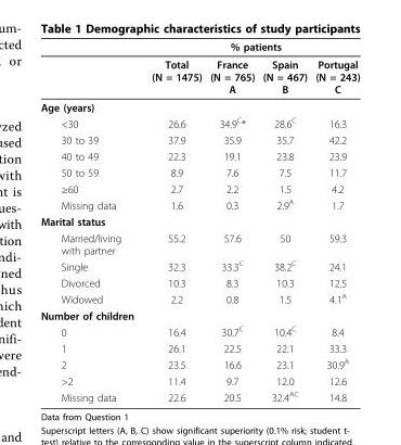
<table><thead><tr><td rowspan="2"></td><td colspan="4">% patients</td></tr><tr><td>Total (N = 1475)</td><td>France (N = 765) A</td><td>Spain (N = 467) B</td><td>Portugal (N = 243) C</td></tr></thead><tbody><tr><td colspan="5">Age (years)</td></tr><tr><td>&lt;30</td><td>26.6</td><td>34.9<sup>C</sup>*</td><td>28.6<sup>C</sup></td><td>16.3</td></tr><tr><td>30 to 39</td><td>37.9</td><td>35.9</td><td>35.7</td><td>42.2</td></tr><tr><td>40 to 49</td><td>22.3</td><td>19.1</td><td>23.8</td><td>23.9</td></tr><tr><td>50 to 59</td><td>8.9</td><td>7.6</td><td>7.5</td><td>11.7</td></tr><tr><td>≥60</td><td>2.7</td><td>2.2</td><td>1.5</td><td>4.2</td></tr><tr><td>Missing data</td><td>1.6</td><td>0.3</td><td>2.9<sup>A</sup></td><td>1.7</td></tr><tr><td colspan="5">Marital status</td></tr><tr><td>Married/living with partner</td><td>55.2</td><td>57.6</td><td>50</td><td>59.3</td></tr><tr><td>Single</td><td>32.3</td><td>33.3<sup>C</sup></td><td>38.2<sup>C</sup></td><td>24.1</td></tr><tr><td>Divorced</td><td>10.3</td><td>8.3</td><td>10.3</td><td>12.5</td></tr><tr><td>Widowed</td><td>2.2</td><td>0.8</td><td>1.5</td><td>4.1<sup>A</sup></td></tr><tr><td colspan="5">Number of children</td></tr><tr><td>0</td><td>16.4</td><td>30.7<sup>C</sup></td><td>10.4<sup>C</sup></td><td>8.4</td></tr><tr><td>1</td><td>26.1</td><td>22.5</td><td>22.1</td><td>33.3</td></tr><tr><td>2</td><td>23.5</td><td>16.6</td><td>23.1</td><td>30.9<sup>A</sup></td></tr><tr><td>&gt;2</td><td>11.4</td><td>9.7</td><td>12.0</td><td>12.6</td></tr><tr><td>Missing data</td><td>22.6</td><td>20.5</td><td>32.4<sup>AC</sup></td><td>14.8</td></tr></tbody></table>